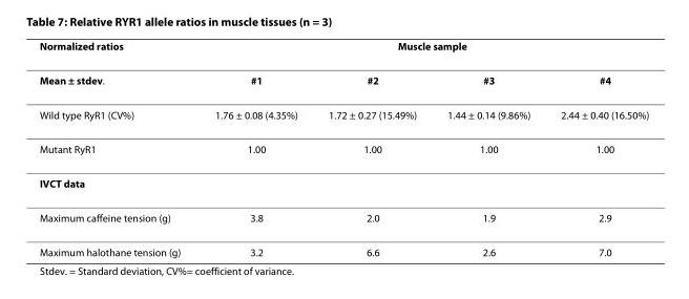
<table><thead><tr><td rowspan="2">Normalized ratios Mean ± stdev.</td><td colspan="4">Muscle sample</td></tr><tr><td>#1</td><td>#2</td><td>#3</td><td>#4</td></tr></thead><tbody><tr><td>Wild type RyR1 (CV%)</td><td>1.76 ± 0.08 (4.35%)</td><td>1.72 ± 0.27 (15.49%)</td><td>1.44 ± 0.14 (9.86%)</td><td>2.44 ± 0.40 (16.50%)</td></tr><tr><td>Mutant RyR1</td><td>1.00</td><td>1.00</td><td>1.00</td><td>1.00</td></tr><tr><td colspan="5">IVCT data</td></tr><tr><td>Maximum caffeine tension (g)</td><td>3.8</td><td>2.0</td><td>1.9</td><td>2.9</td></tr><tr><td>Maximum halothane tension (g)</td><td>3.2</td><td>6.6</td><td>2.6</td><td>7.0</td></tr></tbody></table>